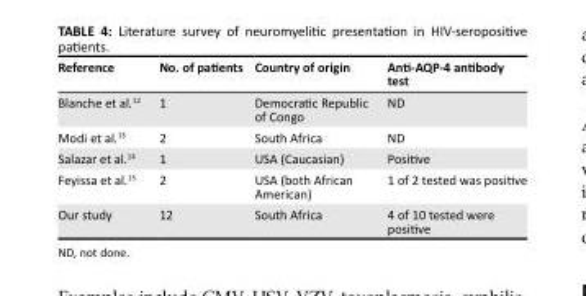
<table><thead><tr><td>Reference</td><td>No. of patients</td><td>Country of origin</td><td>Anti-AQP-4 antibody test</td></tr></thead><tbody><tr><td>Blanche et al.<sup>12</sup></td><td>1</td><td>Democratic Republic of Congo</td><td>ND</td></tr><tr><td>Modi et al.<sup>13</sup></td><td>2</td><td>South Africa</td><td>ND</td></tr><tr><td>Salazar et al.<sup>14</sup></td><td>1</td><td>USA (Caucasian)</td><td>Positive</td></tr><tr><td>Feyissa et al.<sup>15</sup></td><td>2</td><td>USA (both African American)</td><td>1 of 2 tested was positive</td></tr><tr><td>Our study</td><td>12</td><td>South Africa</td><td>4 of 10 tested were positive</td></tr></tbody></table>